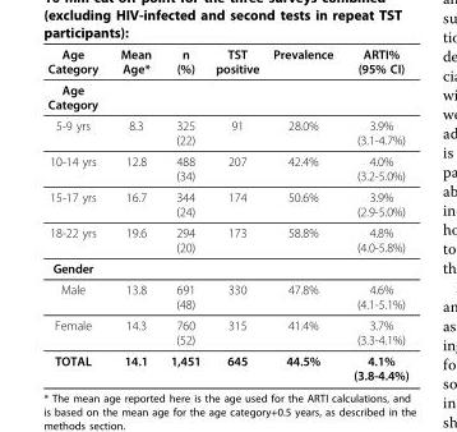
<table><thead><tr><td>Age Category</td><td>Mean Age*</td><td>n (%)</td><td>TST positive</td><td>Prevalence</td><td>ARTI% (95% CI)</td></tr></thead><tbody><tr><td colspan="6">Age Category</td></tr><tr><td>5-9 yrs</td><td>8.3</td><td>325 (22)</td><td>91</td><td>28.0%</td><td>3.9% (3.1-4.7%)</td></tr><tr><td>10-14 yrs</td><td>12.8</td><td>488 (34)</td><td>207</td><td>42.4%</td><td>4.0% (3.2-5.0%)</td></tr><tr><td>15-17 yrs</td><td>16.7</td><td>344 (24)</td><td>174</td><td>50.6%</td><td>3.9% (2.9-5.0%)</td></tr><tr><td>18-22 yrs</td><td>19.6</td><td>294 (20)</td><td>173</td><td>58.8%</td><td>4.8% (4.0-5.8%)</td></tr><tr><td colspan="6">Gender</td></tr><tr><td>Male</td><td>13.8</td><td>691 (48)</td><td>330</td><td>47.8%</td><td>4.6% (4.1-5.1%)</td></tr><tr><td>Female</td><td>14.3</td><td>760 (52)</td><td>315</td><td>41.4%</td><td>3.7% (3.3-4.1%)</td></tr><tr><td>TOTAL</td><td>14.1</td><td>1,451</td><td>645</td><td>44.5%</td><td>4.1% (3.8-4.4%)</td></tr></tbody></table>